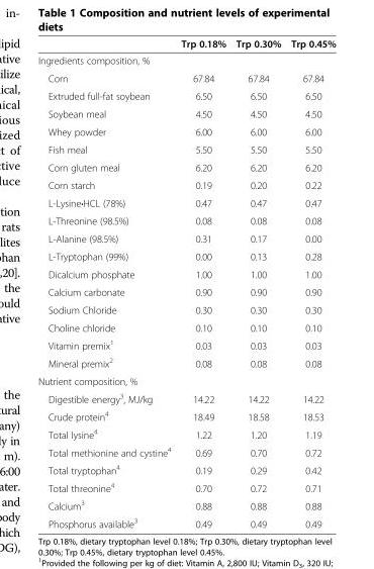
<table><thead><tr><td></td><td>Trp 0.18%</td><td>Trp 0.30%</td><td>Trp 0.45%</td></tr></thead><tbody><tr><td colspan="4">Ingredients composition, %</td></tr><tr><td>Corn</td><td>67.84</td><td>67.84</td><td>67.84</td></tr><tr><td>Extruded full-fat soybean</td><td>6.50</td><td>6.50</td><td>6.50</td></tr><tr><td>Soybean meal</td><td>4.50</td><td>4.50</td><td>4.50</td></tr><tr><td>Whey powder</td><td>6.00</td><td>6.00</td><td>6.00</td></tr><tr><td>Fish meal</td><td>5.50</td><td>5.50</td><td>5.50</td></tr><tr><td>Corn gluten meal</td><td>6.20</td><td>6.20</td><td>6.20</td></tr><tr><td>Corn starch</td><td>0.19</td><td>0.20</td><td>0.22</td></tr><tr><td>L-Lysine·HCL (78%)</td><td>0.47</td><td>0.47</td><td>0.47</td></tr><tr><td>L-Threonine (98.5%)</td><td>0.08</td><td>0.08</td><td>0.08</td></tr><tr><td>L-Alanine (98.5%)</td><td>0.31</td><td>0.17</td><td>0.00</td></tr><tr><td>L-Tryptophan (99%)</td><td>0.00</td><td>0.13</td><td>0.28</td></tr><tr><td>Dicalcium phosphate</td><td>1.00</td><td>1.00</td><td>1.00</td></tr><tr><td>Calcium carbonate</td><td>0.90</td><td>0.90</td><td>0.90</td></tr><tr><td>Sodium Chloride</td><td>0.30</td><td>0.30</td><td>0.30</td></tr><tr><td>Choline chloride</td><td>0.10</td><td>0.10</td><td>0.10</td></tr><tr><td>Vitamin premix<sup>1</sup></td><td>0.03</td><td>0.03</td><td>0.03</td></tr><tr><td>Mineral premix<sup>2</sup></td><td>0.08</td><td>0.08</td><td>0.08</td></tr><tr><td colspan="4">Nutrient composition, %</td></tr><tr><td>Digestible energy<sup>3</sup>, MJ/kg</td><td>14.22</td><td>14.22</td><td>14.22</td></tr><tr><td>Crude protein<sup>4</sup></td><td>18.49</td><td>18.58</td><td>18.53</td></tr><tr><td>Total lysine<sup>4</sup></td><td>1.22</td><td>1.20</td><td>1.19</td></tr><tr><td>Total methionine and cystine<sup>4</sup></td><td>0.69</td><td>0.70</td><td>0.72</td></tr><tr><td>Total tryptophan<sup>4</sup></td><td>0.19</td><td>0.29</td><td>0.42</td></tr><tr><td>Total threonine<sup>4</sup></td><td>0.70</td><td>0.72</td><td>0.71</td></tr><tr><td>Calcium<sup>3</sup></td><td>0.88</td><td>0.88</td><td>0.88</td></tr><tr><td>Phosphorus available<sup>3</sup></td><td>0.49</td><td>0.49</td><td>0.49</td></tr></tbody></table>